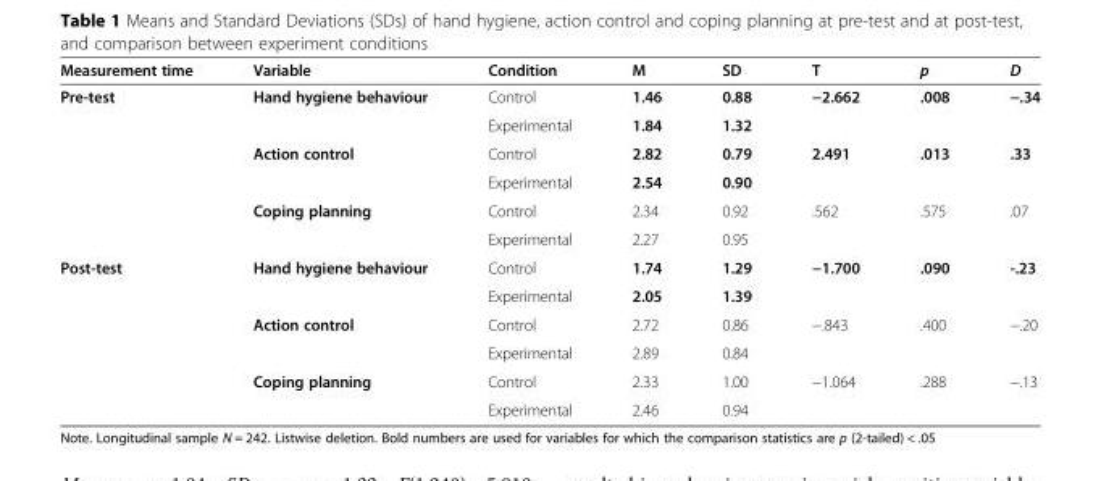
<table><thead><tr><td>Measurement time</td><td>Variable</td><td>Condition</td><td>M</td><td>SD</td><td>T</td><td>p</td><td>D</td></tr></thead><tbody><tr><td rowspan="6">Pre-test</td><td rowspan="2">Hand hygiene behaviour</td><td>Control</td><td>1.46</td><td>0.88</td><td rowspan="2">−2.662</td><td rowspan="2">.008</td><td>−.34</td></tr><tr><td>Experimental</td><td>1.84</td><td>1.32</td><td></td></tr><tr><td rowspan="2">Action control</td><td>Control</td><td>2.82</td><td>0.79</td><td rowspan="2">2.491</td><td rowspan="2">.013</td><td>.33</td></tr><tr><td>Experimental</td><td>2.54</td><td>0.90</td><td></td></tr><tr><td rowspan="2">Coping planning</td><td>Control</td><td>2.34</td><td>0.92</td><td rowspan="2">.562</td><td>.575</td><td>.07</td></tr><tr><td>Experimental</td><td>2.27</td><td>0.95</td><td></td><td></td></tr><tr><td rowspan="6">Post-test</td><td rowspan="2">Hand hygiene behaviour</td><td>Control</td><td>1.74</td><td>1.29</td><td rowspan="2">−1.700</td><td>.090</td><td>-.23</td></tr><tr><td>Experimental</td><td>2.05</td><td>1.39</td><td></td><td></td></tr><tr><td rowspan="2">Action control</td><td>Control</td><td>2.72</td><td>0.86</td><td rowspan="2">−.843</td><td rowspan="2">.400</td><td>−.20</td></tr><tr><td>Experimental</td><td>2.89</td><td>0.84</td><td></td></tr><tr><td rowspan="2">Coping planning</td><td>Control</td><td>2.33</td><td>1.00</td><td rowspan="2">−1.064</td><td>.288</td><td>−.13</td></tr><tr><td>Experimental</td><td>2.46</td><td>0.94</td><td></td><td></td></tr></tbody></table>